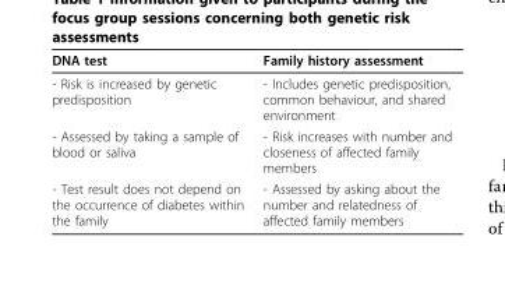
<table><thead><tr><td>DNA test</td><td>Family history assessment</td></tr></thead><tbody><tr><td>- Risk is increased by genetic predisposition</td><td>- Includes genetic predisposition, common behaviour, and shared environment</td></tr><tr><td>- Assessed by taking a sample of blood or saliva</td><td>- Risk increases with number and closeness of affected family members</td></tr><tr><td>- Test result does not depend on the occurrence of diabetes within the family</td><td>- Assessed by asking about the number and relatedness of affected family members</td></tr></tbody></table>